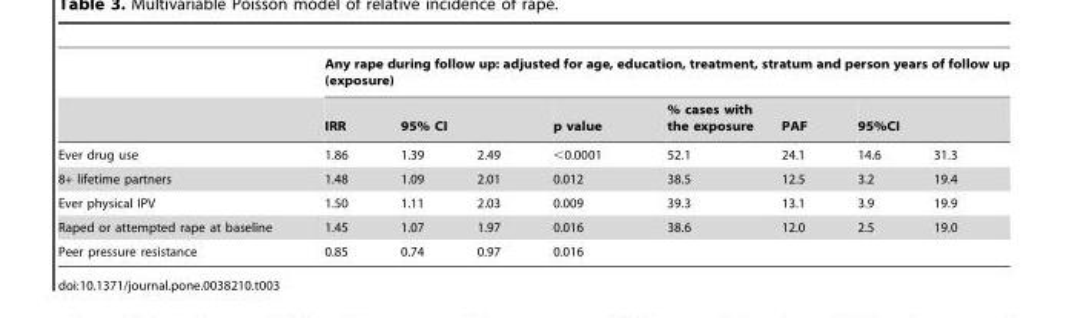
<table><thead><tr><td rowspan="3">Ever drug use</td><td colspan="8">Any rape during follow up: adjusted for age, education, treatment, stratum and person years of follow up (exposure)</td></tr><tr><td rowspan="2">IRR 1.86</td><td colspan="2">95% CI</td><td rowspan="2">p value &lt;0.0001</td><td rowspan="2">% cases with the exposure 52.1</td><td rowspan="2">PAF 24.1</td><td colspan="2">95%CI</td></tr><tr><td>1.39</td><td>2.49</td><td>14.6</td><td>31.3</td></tr></thead><tbody><tr><td>8+ lifetime partners</td><td>1.48</td><td>1.09</td><td>2.01</td><td>0.012</td><td>38.5</td><td>12.5</td><td>3.2</td><td>19.4</td></tr><tr><td>Ever physical IPV</td><td>1.50</td><td>1.11</td><td>2.03</td><td>0.009</td><td>39.3</td><td>13.1</td><td>3.9</td><td>19.9</td></tr><tr><td>Raped or attempted rape at baseline</td><td>1.45</td><td>1.07</td><td>1.97</td><td>0.016</td><td>38.6</td><td>12.0</td><td>2.5</td><td>19.0</td></tr><tr><td>Peer pressure resistance</td><td>0.85</td><td>0.74</td><td>0.97</td><td>0.016</td><td></td><td></td><td></td><td></td></tr></tbody></table>